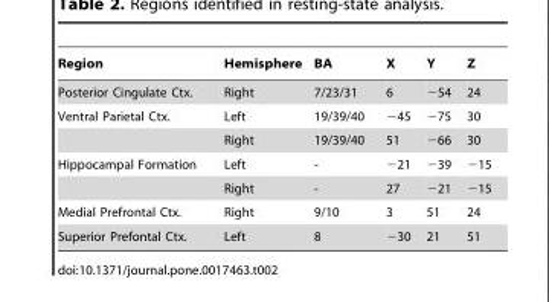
<table><thead><tr><td>Region</td><td>Hemisphere</td><td>BA</td><td>X</td><td>Y</td><td>Z</td></tr></thead><tbody><tr><td>Posterior Cingulate Ctx.</td><td>Right</td><td>7/23/31</td><td>6</td><td>−54</td><td>24</td></tr><tr><td rowspan="2">Ventral Parietal Ctx.</td><td>Left</td><td>19/39/40</td><td>−45</td><td>−75</td><td>30</td></tr><tr><td>Right</td><td>19/39/40</td><td>51</td><td>−66</td><td>30</td></tr><tr><td rowspan="2">Hippocampal Formation</td><td>Left</td><td>-</td><td>−21</td><td>−39</td><td>−15</td></tr><tr><td>Right</td><td>-</td><td>27</td><td>−21</td><td>−15</td></tr><tr><td>Medial Prefrontal Ctx.</td><td>Right</td><td>9/10</td><td>3</td><td>51</td><td>24</td></tr><tr><td>Superior Prefontal Ctx.</td><td>Left</td><td>8</td><td>−30</td><td>21</td><td>51</td></tr></tbody></table>